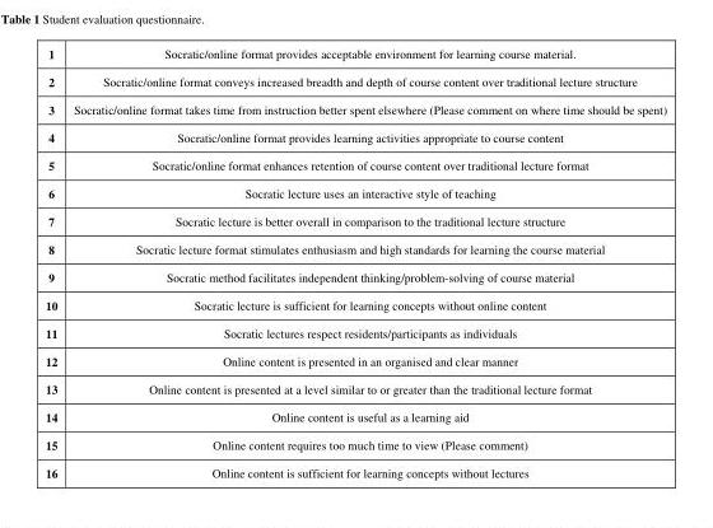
<table><tbody><tr><td>1</td><td>Socratic/online format provides acceptable environment for learning course material.</td></tr><tr><td>2</td><td>Socratic/online format conveys increased breadth and depth of course content over traditional lecture structure</td></tr><tr><td>3</td><td>Socratic/online format takes time from instruction better spent elsewhere (Please comment on where time should be spent)</td></tr><tr><td>4</td><td>Socratic/online format provides learning activities appropriate to course content</td></tr><tr><td>5</td><td>Socratic/online format enhances retention of course content over traditional lecture format</td></tr><tr><td>6</td><td>Socratic lecture uses an interactive style of teaching</td></tr><tr><td>7</td><td>Socratic lecture is better overall in comparison to the traditional lecture structure</td></tr><tr><td>8</td><td>Socratic lecture format stimulates enthusiasm and high standards for learning the course material</td></tr><tr><td>9</td><td>Socratic method facilitates independent thinking/problem-solving of course material</td></tr><tr><td>10</td><td>Socratic lecture is sufficient for learning concepts without online content</td></tr><tr><td>11</td><td>Socratic lectures respect residents/participants as individuals</td></tr><tr><td>12</td><td>Online content is presented in an organised and clear manner</td></tr><tr><td>13</td><td>Online content is presented at a level similar to or greater than the traditional lecture format</td></tr><tr><td>14</td><td>Online content is useful as a learning aid</td></tr><tr><td>15</td><td>Online content requires too much time to view (Please comment)</td></tr><tr><td>16</td><td>Online content is sufficient for learning concepts without lectures</td></tr></tbody></table>